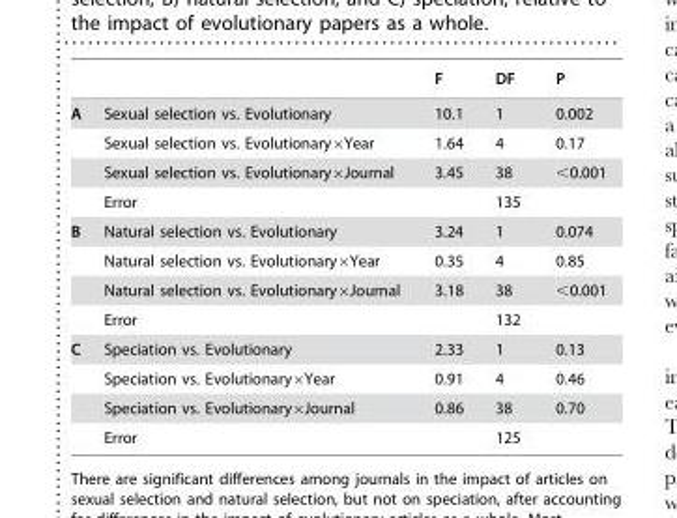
<table><thead><tr><td></td><td></td><td>F</td><td>DF</td><td>P</td></tr></thead><tbody><tr><td rowspan="4">A</td><td>Sexual selection vs. Evolutionary</td><td>10.1</td><td>1</td><td>0.002</td></tr><tr><td>Sexual selection vs. Evolutionary×Year</td><td>1.64</td><td>4</td><td>0.17</td></tr><tr><td>Sexual selection vs. Evolutionary×Journal</td><td>3.45</td><td>38</td><td>&lt;0.001</td></tr><tr><td>Error</td><td></td><td>135</td><td></td></tr><tr><td rowspan="4">B</td><td>Natural selection vs. Evolutionary</td><td>3.24</td><td>1</td><td>0.074</td></tr><tr><td>Natural selection vs. Evolutionary×Year</td><td>0.35</td><td>4</td><td>0.85</td></tr><tr><td>Natural selection vs. Evolutionary×Journal</td><td>3.18</td><td>38</td><td>&lt;0.001</td></tr><tr><td>Error</td><td></td><td>132</td><td></td></tr><tr><td rowspan="4">C</td><td>Speciation vs. Evolutionary</td><td>2.33</td><td>1</td><td>0.13</td></tr><tr><td>Speciation vs. Evolutionary×Year</td><td>0.91</td><td>4</td><td>0.46</td></tr><tr><td>Speciation vs. Evolutionary×Journal</td><td>0.86</td><td>38</td><td>0.70</td></tr><tr><td>Error</td><td></td><td>125</td><td></td></tr></tbody></table>